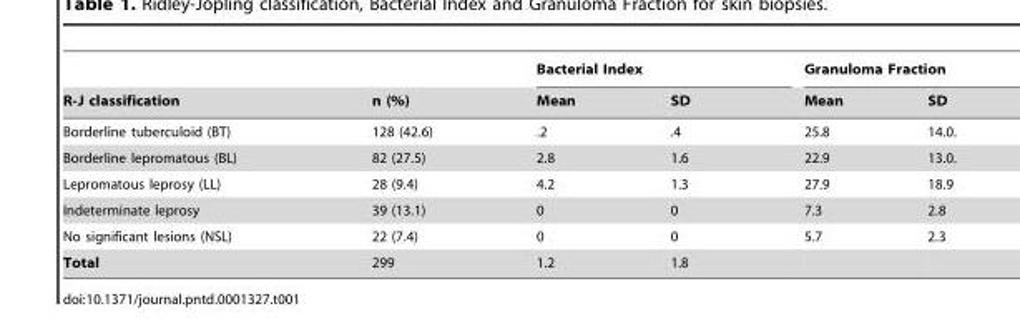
<table><thead><tr><td rowspan="2">R-J classification</td><td rowspan="2">n (%)</td><td colspan="2">Bacterial Index</td><td colspan="2">Granuloma Fraction</td></tr><tr><td>Mean</td><td>SD</td><td>Mean</td><td>SD</td></tr></thead><tbody><tr><td>Borderline tuberculoid (BT)</td><td>128 (42.6)</td><td>.2</td><td>.4</td><td>25.8</td><td>14.0.</td></tr><tr><td>Borderline lepromatous (BL)</td><td>82 (27.5)</td><td>2.8</td><td>1.6</td><td>22.9</td><td>13.0.</td></tr><tr><td>Lepromatous leprosy (LL)</td><td>28 (9.4)</td><td>4.2</td><td>1.3</td><td>27.9</td><td>18.9</td></tr><tr><td>Indeterminate leprosy</td><td>39 (13.1)</td><td>0</td><td>0</td><td>7.3</td><td>2.8</td></tr><tr><td>No significant lesions (NSL)</td><td>22 (7.4)</td><td>0</td><td>0</td><td>5.7</td><td>2.3</td></tr><tr><td>Total</td><td>299</td><td>1.2</td><td>1.8</td><td></td><td></td></tr></tbody></table>